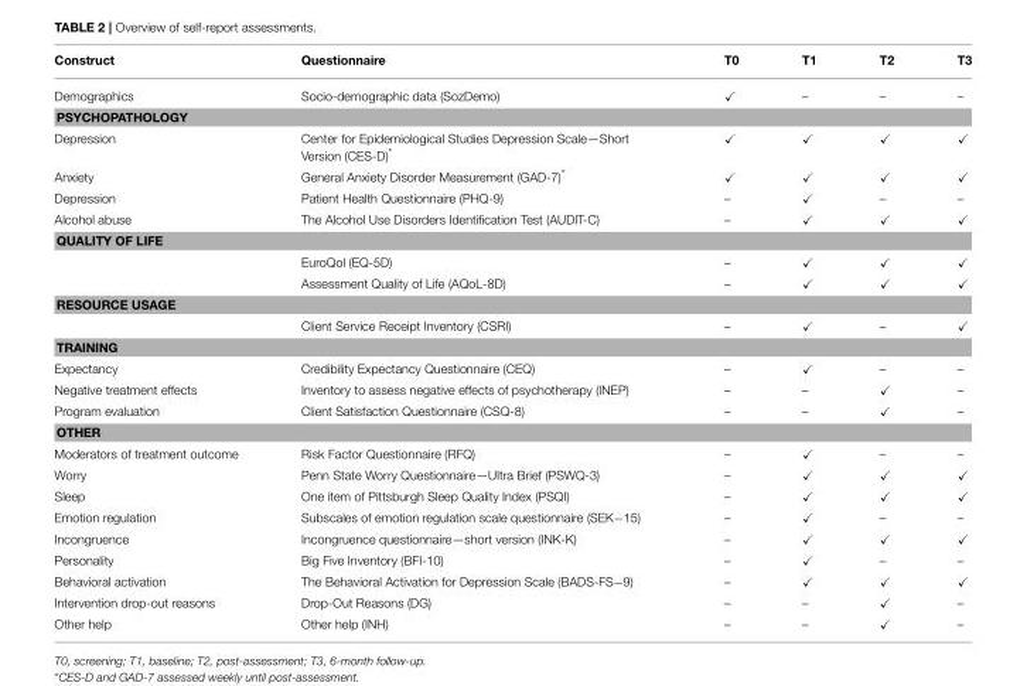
<table><thead><tr><td>Construct</td><td>Questionnaire</td><td>T0</td><td>T1</td><td>T2</td><td>T3</td></tr></thead><tbody><tr><td>Demographics</td><td>Socio-demographic data (SozDemo)</td><td>✓</td><td>–</td><td>–</td><td>–</td></tr><tr><td colspan="6">PSYCHOPATHOLOGY</td></tr><tr><td>Depression</td><td>Center for Epidemiological Studies Depression Scale—Short Version (CES-D)*</td><td>✓</td><td>✓</td><td>✓</td><td>✓</td></tr><tr><td>Anxiety</td><td>General Anxiety Disorder Measurement (GAD-7)*</td><td>✓</td><td>✓</td><td>✓</td><td>✓</td></tr><tr><td>Depression</td><td>Patient Health Questionnaire (PHQ-9)</td><td>–</td><td>✓</td><td>–</td><td>–</td></tr><tr><td>Alcohol abuse</td><td>The Alcohol Use Disorders Identification Test (AUDIT-C)</td><td>–</td><td>✓</td><td>✓</td><td>✓</td></tr><tr><td colspan="6">QUALITY OF LIFE</td></tr><tr><td></td><td>EuroQol (EQ-5D)</td><td>–</td><td>✓</td><td>✓</td><td>✓</td></tr><tr><td></td><td>Assessment Quality of Life (AQoL-8D)</td><td>–</td><td>✓</td><td>✓</td><td>✓</td></tr><tr><td colspan="6">RESOURCE USAGE</td></tr><tr><td></td><td>Client Service Receipt Inventory (CSRI)</td><td>–</td><td>✓</td><td>–</td><td>✓</td></tr><tr><td colspan="6">TRAINING</td></tr><tr><td>Expectancy</td><td>Credibility Expectancy Questionnaire (CEQ)</td><td>–</td><td>✓</td><td>–</td><td>–</td></tr><tr><td>Negative treatment effects</td><td>Inventory to assess negative effects of psychotherapy (INEP)</td><td>–</td><td>–</td><td>✓</td><td>–</td></tr><tr><td>Program evaluation</td><td>Client Satisfaction Questionnaire (CSQ-8)</td><td>–</td><td>–</td><td>✓</td><td>–</td></tr><tr><td colspan="6">OTHER</td></tr><tr><td>Moderators of treatment outcome</td><td>Risk Factor Questionnaire (RFQ)</td><td>–</td><td>✓</td><td>–</td><td>–</td></tr><tr><td>Worry</td><td>Penn State Worry Questionnaire—Ultra Brief (PSWQ-3)</td><td>–</td><td>✓</td><td>✓</td><td>✓</td></tr><tr><td>Sleep</td><td>One item of Pittsburgh Sleep Quality Index (PSQI)</td><td>–</td><td>✓</td><td>✓</td><td>✓</td></tr><tr><td>Emotion regulation</td><td>Subscales of emotion regulation scale questionnaire (SEK−15)</td><td>–</td><td>✓</td><td>–</td><td>–</td></tr><tr><td>Incongruence</td><td>Incongruence questionnaire—short version (INK-K)</td><td>–</td><td>✓</td><td>✓</td><td>✓</td></tr><tr><td>Personality</td><td>Big Five Inventory (BFI-10)</td><td>–</td><td>✓</td><td>–</td><td>–</td></tr><tr><td>Behavioral activation</td><td>The Behavioral Activation for Depression Scale (BADS-FS−9)</td><td>–</td><td>✓</td><td>✓</td><td>✓</td></tr><tr><td>Intervention drop-out reasons</td><td>Drop-Out Reasons (DG)</td><td>–</td><td>–</td><td>✓</td><td>–</td></tr><tr><td>Other help</td><td>Other help (INH)</td><td>–</td><td>–</td><td>✓</td><td>–</td></tr></tbody></table>